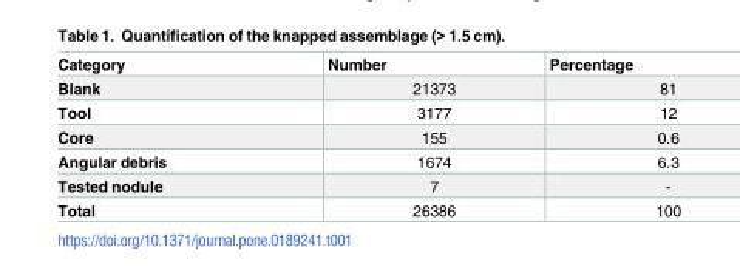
<table><thead><tr><td>Category</td><td>Number</td><td>Percentage</td></tr></thead><tbody><tr><td>Blank</td><td>21373</td><td>81</td></tr><tr><td>Tool</td><td>3177</td><td>12</td></tr><tr><td>Core</td><td>155</td><td>0.6</td></tr><tr><td>Angular debris</td><td>1674</td><td>6.3</td></tr><tr><td>Tested nodule</td><td>7</td><td>-</td></tr><tr><td>Total</td><td>26386</td><td>100</td></tr></tbody></table>